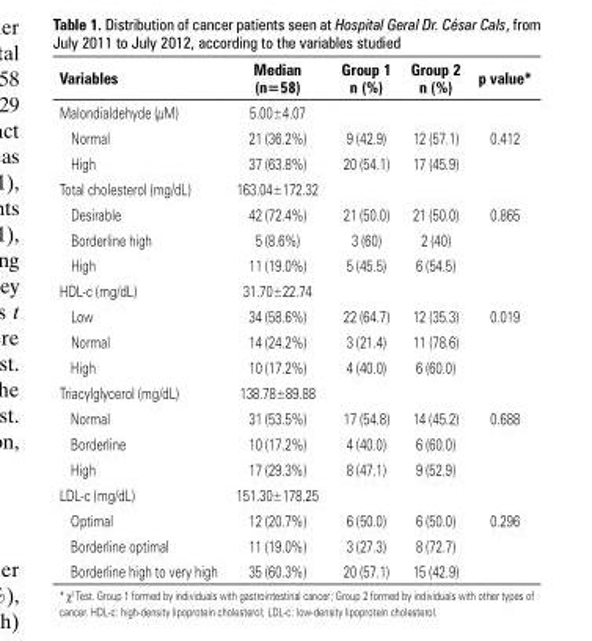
<table><thead><tr><td>Variables</td><td>Median (n=58)</td><td>Group 1 n (%)</td><td>Group 2 n (%)</td><td>p value*</td></tr></thead><tbody><tr><td>Malondialdehyde (μM)</td><td>5.00±4.07</td><td></td><td></td><td></td></tr><tr><td>Normal</td><td>21 (36.2%)</td><td>9 (42.9)</td><td>12 (57.1)</td><td>0.412</td></tr><tr><td>High</td><td>37 (63.8%)</td><td>20 (54.1)</td><td>17 (45.9)</td><td></td></tr><tr><td>Total cholesterol (mg/dL)</td><td>163.04±172.32</td><td></td><td></td><td></td></tr><tr><td>Desirable</td><td>42 (72.4%)</td><td>21 (50.0)</td><td>21 (50.0)</td><td>0.865</td></tr><tr><td>Borderline high</td><td>5 (8.6%)</td><td>3 (60)</td><td>2 (40)</td><td></td></tr><tr><td>High</td><td>11 (19.0%)</td><td>5 (45.5)</td><td>6 (54.5)</td><td></td></tr><tr><td>HDL-c (mg/dL)</td><td>31.70±22.74</td><td></td><td></td><td></td></tr><tr><td>Low</td><td>34 (58.6%)</td><td>22 (64.7)</td><td>12 (35.3)</td><td>0.019</td></tr><tr><td>Normal</td><td>14 (24.2%)</td><td>3 (21.4)</td><td>11 (78.6)</td><td></td></tr><tr><td>High</td><td>10 (17.2%)</td><td>4 (40.0)</td><td>6 (60.0)</td><td></td></tr><tr><td>Triacylglycerol (mg/dL)</td><td>138.78±89.88</td><td></td><td></td><td></td></tr><tr><td>Normal</td><td>31 (53.5%)</td><td>17 (54.8)</td><td>14 (45.2)</td><td>0.688</td></tr><tr><td>Borderline</td><td>10 (17.2%)</td><td>4 (40.0)</td><td>6 (60.0)</td><td></td></tr><tr><td>High</td><td>17 (29.3%)</td><td>8 (47.1)</td><td>9 (52.9)</td><td></td></tr><tr><td>LDL-c (mg/dL)</td><td>151.30±178.25</td><td></td><td></td><td></td></tr><tr><td>Optimal</td><td>12 (20.7%)</td><td>6 (50.0)</td><td>6 (50.0)</td><td>0.296</td></tr><tr><td>Borderline optimal</td><td>11 (19.0%)</td><td>3 (27.3)</td><td>8 (72.7)</td><td></td></tr><tr><td>Borderline high to very high</td><td>35 (60.3%)</td><td>20 (57.1)</td><td>15 (42.9)</td><td></td></tr></tbody></table>